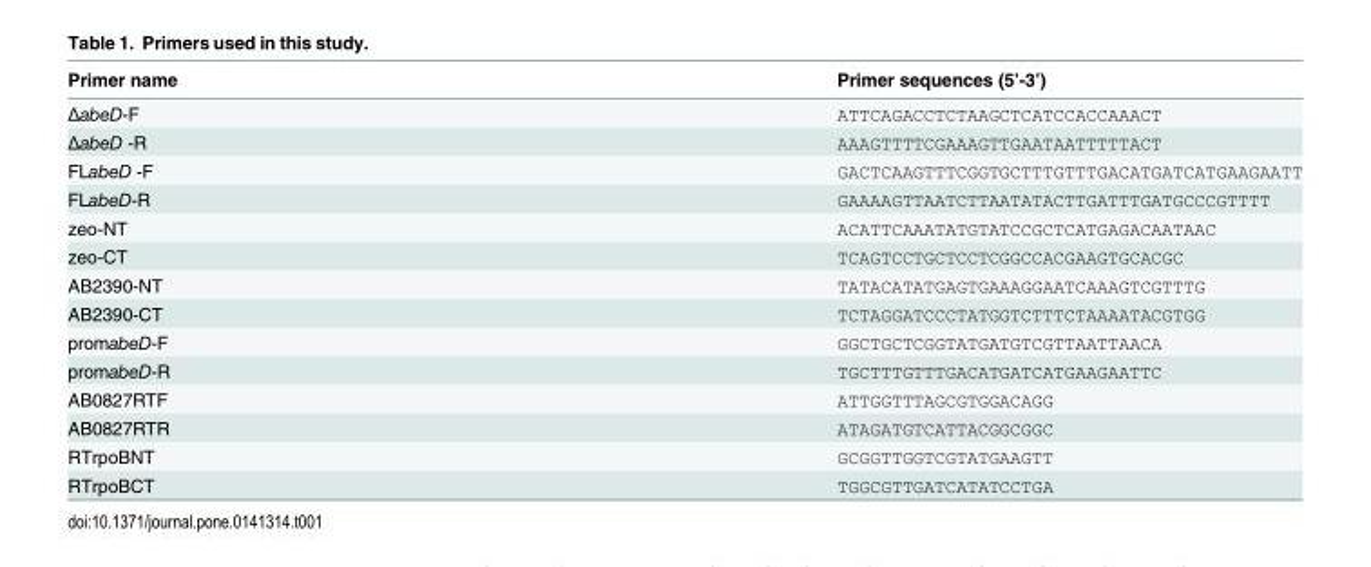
<table><thead><tr><td>Primer name</td><td>Primer sequences (5’-3’)</td></tr></thead><tbody><tr><td>ΔabeD-F</td><td>ATTCAGACCTCTAAGCTCATCCACCAAACT</td></tr><tr><td>ΔabeD -R</td><td>AAAGTTTTCGAAAGTTGAATAATTTTTACT</td></tr><tr><td>FLabeD -F</td><td>GACTCAAGTTTCGGTGCTTTGTTTGACATGATCATGAAGAATT</td></tr><tr><td>FLabeD-R</td><td>GAAAAGTTAATCTTAATATACTTGATTTGATGCCCGTTTT</td></tr><tr><td>zeo-NT</td><td>ACATTCAAATATGTATCCGCTCATGAGACAATAAC</td></tr><tr><td>zeo-CT</td><td>TCAGTCCTGCTCCTCGGCCACGAAGTGCACGC</td></tr><tr><td>AB2390-NT</td><td>TATACATATGAGTGAAAGGAATCAAAGTCGTTTG</td></tr><tr><td>AB2390-CT</td><td>TCTAGGATCCCTATGGTCTTTCTAAAATACGTGG</td></tr><tr><td>promabeD-F</td><td>GGCTGCTCGGTATGATGTCGTTAATTAACA</td></tr><tr><td>promabeD-R</td><td>TGCTTTGTTTGACATGATCATGAAGAATTC</td></tr><tr><td>AB0827RTF</td><td>ATTGGTTTAGCGTGGACAGG</td></tr><tr><td>AB0827RTR</td><td>ATAGATGTCATTACGGCGGC</td></tr><tr><td>RTrpoBNT</td><td>GCGGTTGGTCGTATGAAGTT</td></tr><tr><td>RTrpoBCT</td><td>TGGCGTTGATCATATCCTGA</td></tr></tbody></table>